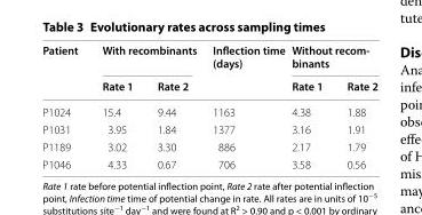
<table><thead><tr><td rowspan="2">Patient</td><td colspan="2">With recombinants</td><td rowspan="2">Inflection time (days)</td><td colspan="2">Without recom‑ binants</td></tr><tr><td>Rate 1</td><td>Rate 2</td><td>Rate 1</td><td>Rate 2</td></tr></thead><tbody><tr><td>P1024</td><td>15.4</td><td>9.44</td><td>1163</td><td>4.38</td><td>1.88</td></tr><tr><td>P1031</td><td>3.95</td><td>1.84</td><td>1377</td><td>3.16</td><td>1.91</td></tr><tr><td>P1189</td><td>3.02</td><td>3.30</td><td>886</td><td>2.17</td><td>1.79</td></tr><tr><td>P1046</td><td>4.33</td><td>0.67</td><td>706</td><td>3.58</td><td>0.56</td></tr></tbody></table>